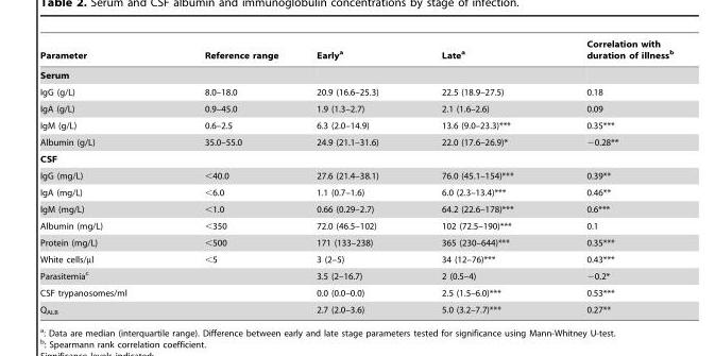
<table><thead><tr><td>Parameter</td><td>Reference range</td><td>Early<sup>a</sup></td><td>Late<sup>a</sup></td><td>Correlation with duration of illness<sup>b</sup></td></tr></thead><tbody><tr><td colspan="5">Serum</td></tr><tr><td>IgG (g/L)</td><td>8.0–18.0</td><td>20.9 (16.6–25.3)</td><td>22.5 (18.9–27.5)</td><td>0.18</td></tr><tr><td>IgA (g/L)</td><td>0.9–45.0</td><td>1.9 (1.3–2.7)</td><td>2.1 (1.6–2.6)</td><td>0.09</td></tr><tr><td>IgM (g/L)</td><td>0.6–2.5</td><td>6.3 (2.0–14.9)</td><td>13.6 (9.0–23.3)***</td><td>0.35***</td></tr><tr><td>Albumin (g/L)</td><td>35.0–55.0</td><td>24.9 (21.1–31.6)</td><td>22.0 (17.6–26.9)*</td><td>−0.28**</td></tr><tr><td colspan="5">CSF</td></tr><tr><td>IgG (mg/L)</td><td>&lt;40.0</td><td>27.6 (21.4–38.1)</td><td>76.0 (45.1–154)***</td><td>0.39**</td></tr><tr><td>IgA (mg/L)</td><td>&lt;6.0</td><td>1.1 (0.7–1.6)</td><td>6.0 (2.3–13.4)***</td><td>0.46**</td></tr><tr><td>IgM (mg/L)</td><td>&lt;1.0</td><td>0.66 (0.29–2.7)</td><td>64.2 (22.6–178)***</td><td>0.6***</td></tr><tr><td>Albumin (mg/L)</td><td>&lt;350</td><td>72.0 (46.5–102)</td><td>102 (72.5–190)***</td><td>0.1</td></tr><tr><td>Protein (mg/L)</td><td>&lt;500</td><td>171 (133–238)</td><td>365 (230–644)***</td><td>0.35***</td></tr><tr><td>White cells/µl</td><td>&lt;5</td><td>3 (2–5)</td><td>34 (12–76)***</td><td>0.43***</td></tr><tr><td>Parasitemia<sup>c</sup></td><td></td><td>3.5 (2–16.7)</td><td>2 (0.5–4)</td><td>−0.2*</td></tr><tr><td>CSF trypanosomes/ml</td><td></td><td>0.0 (0.0–0.0)</td><td>2.5 (1.5–6.0)***</td><td>0.53***</td></tr><tr><td>Q<sub>ALB</sub></td><td></td><td>2.7 (2.0–3.6)</td><td>5.0 (3.2–7.7)***</td><td>0.27**</td></tr></tbody></table>